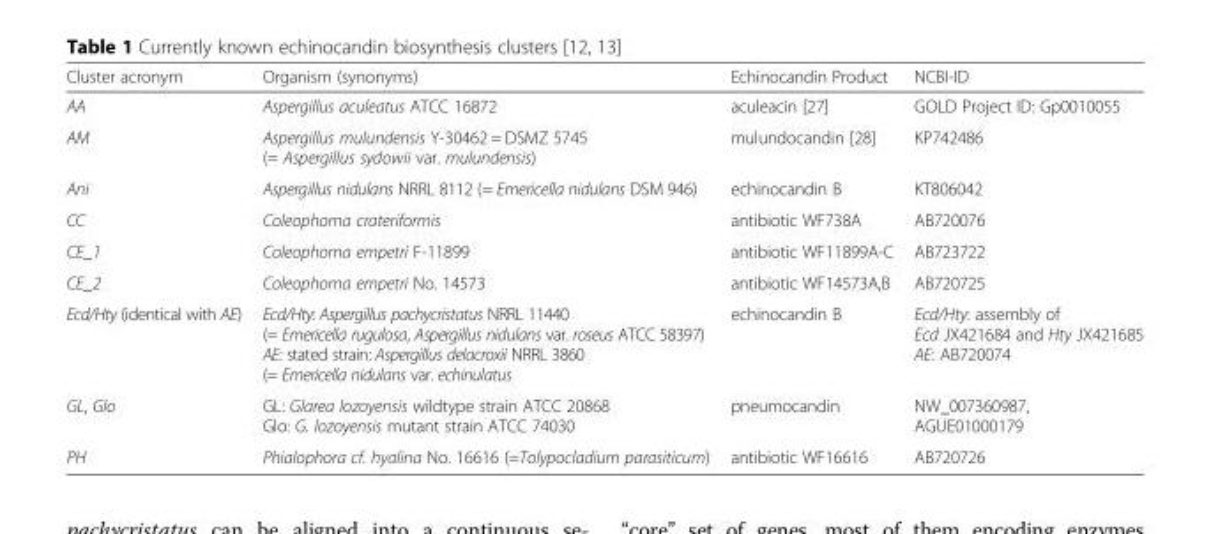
<table><thead><tr><td>Cluster acronym</td><td>Organism (synonyms)</td><td>Echinocandin Product</td><td>NCBI-ID</td></tr></thead><tbody><tr><td>AA</td><td>Aspergillus aculeatus ATCC 16872</td><td>aculeacin [27]</td><td>GOLD Project ID: Gp0010055</td></tr><tr><td>AM</td><td>Aspergillus mulundensis Y-30462 = DSMZ 5745 (= Aspergillus sydowii var. mulundensis)</td><td>mulundocandin [28]</td><td>KP742486</td></tr><tr><td>Ani</td><td>Aspergillus nidulans NRRL 8112 (= Emericella nidulans DSM 946)</td><td>echinocandin B</td><td>KT806042</td></tr><tr><td>CC</td><td>Coleophoma crateriformis</td><td>antibiotic WF738A</td><td>AB720076</td></tr><tr><td>CE_1</td><td>Coleophoma empetri F-11899</td><td>antibiotic WF11899A-C</td><td>AB723722</td></tr><tr><td>CE_2</td><td>Coleophoma empetri No. 14573</td><td>antibiotic WF14573A,B</td><td>AB720725</td></tr><tr><td>Ecd/Hty (identical with AE)</td><td>Ecd/Hty: Aspergillus pachycristatus NRRL 11440 (= Emericella rugulosa, Aspergillus nidulans var. roseus ATCC 58397) AE: stated strain: Aspergillus delacroxii NRRL 3860 (= Emericella nidulans var. echinulatus</td><td>echinocandin B</td><td>Ecd/Hty: assembly of Ecd JX421684 and Hty JX421685 AE: AB720074</td></tr><tr><td>GL, Glo</td><td>GL: Glarea lozoyensis wildtype strain ATCC 20868 Glo: G. lozoyensis mutant strain ATCC 74030</td><td>pneumocandin</td><td>NW_007360987, AGUE01000179</td></tr><tr><td>PH</td><td>Phialophora cf. hyalina No. 16616 (=Tolypocladium parasiticum)</td><td>antibiotic WF16616</td><td>AB720726</td></tr></tbody></table>